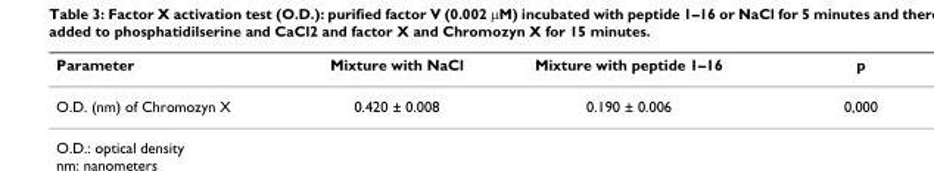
<table><thead><tr><td>Parameter</td><td>Mixture with NaCl</td><td>Mixture with peptide 1–16</td><td>p</td></tr></thead><tbody><tr><td>O.D. (nm) of Chromozyn X</td><td>0.420 ± 0.008</td><td>0.190 ± 0.006</td><td>0,000</td></tr></tbody></table>